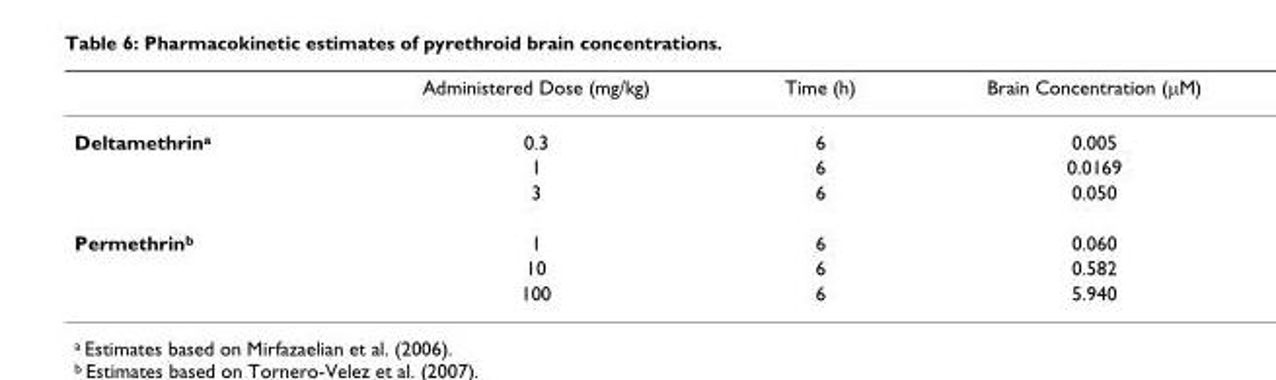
<table><thead><tr><td></td><td>Administered Dose (mg/kg)</td><td>Time (h)</td><td>Brain Concentration (μM)</td></tr></thead><tbody><tr><td rowspan="3">Deltamethrin<sup>a</sup></td><td>0.3</td><td>6</td><td>0.005</td></tr><tr><td>1</td><td>6</td><td>0.0169</td></tr><tr><td>3</td><td>6</td><td>0.050</td></tr><tr><td rowspan="3">Permethrin<sup>b</sup></td><td>1</td><td>6</td><td>0.060</td></tr><tr><td>10</td><td>6</td><td>0.582</td></tr><tr><td>100</td><td>6</td><td>5.940</td></tr></tbody></table>